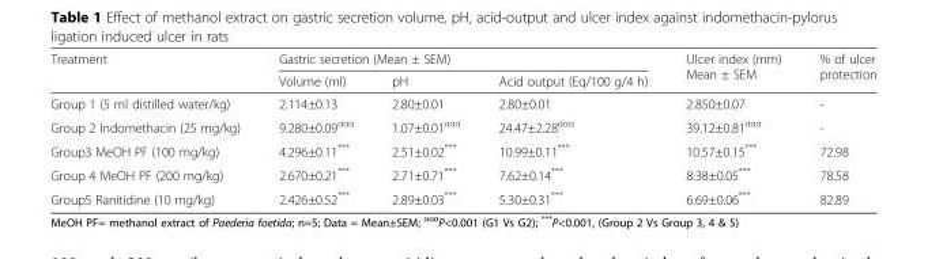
<table><thead><tr><td rowspan="2">Treatment</td><td colspan="3">Gastric secretion (Mean ± SEM)</td><td rowspan="2">Ulcer index (mm) Mean ± SEM</td><td rowspan="2">% of ulcer protection</td></tr><tr><td>Volume (ml)</td><td>pH</td><td>Acid output (Eq/100 g/4 h)</td></tr></thead><tbody><tr><td>Group 1 (5 ml distilled water/kg)</td><td>2.114±0.13</td><td>2.80±0.01</td><td>2.80±0.01</td><td>2.850±0.07</td><td>-</td></tr><tr><td>Group 2 Indomethacin (25 mg/kg)</td><td>9.280±0.09<sup>ααα</sup></td><td>1.07±0.01<sup>ααα</sup></td><td>24.47±2.28<sup>ααα</sup></td><td>39.12±0.81<sup>ααα</sup></td><td>-</td></tr><tr><td>Group3 MeOH PF (100 mg/kg)</td><td>4.296±0.11***</td><td>2.51±0.02***</td><td>10.99±0.11***</td><td>10.57±0.15***</td><td>72.98</td></tr><tr><td>Group 4 MeOH PF (200 mg/kg)</td><td>2.670±0.21***</td><td>2.71±0.71***</td><td>7.62±0.14***</td><td>8.38±0.05***</td><td>78.58</td></tr><tr><td>Group5 Ranitidine (10 mg/kg)</td><td>2.426±0.52***</td><td>2.89±0.03***</td><td>5.30±0.31***</td><td>6.69±0.06***</td><td>82.89</td></tr></tbody></table>